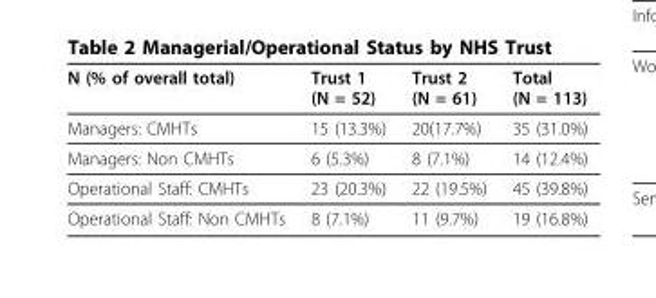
<table><thead><tr><td>N (% of overall total)</td><td>Trust 1 (N = 52)</td><td>Trust 2 (N = 61)</td><td>Total (N = 113)</td></tr></thead><tbody><tr><td>Managers: CMHTs</td><td>15 (13.3%)</td><td>20(17.7%)</td><td>35 (31.0%)</td></tr><tr><td>Managers: Non CMHTs</td><td>6 (5.3%)</td><td>8 (7.1%)</td><td>14 (12.4%)</td></tr><tr><td>Operational Staff: CMHTs</td><td>23 (20.3%)</td><td>22 (19.5%)</td><td>45 (39.8%)</td></tr><tr><td>Operational Staff: Non CMHTs</td><td>8 (7.1%)</td><td>11 (9.7%)</td><td>19 (16.8%)</td></tr></tbody></table>